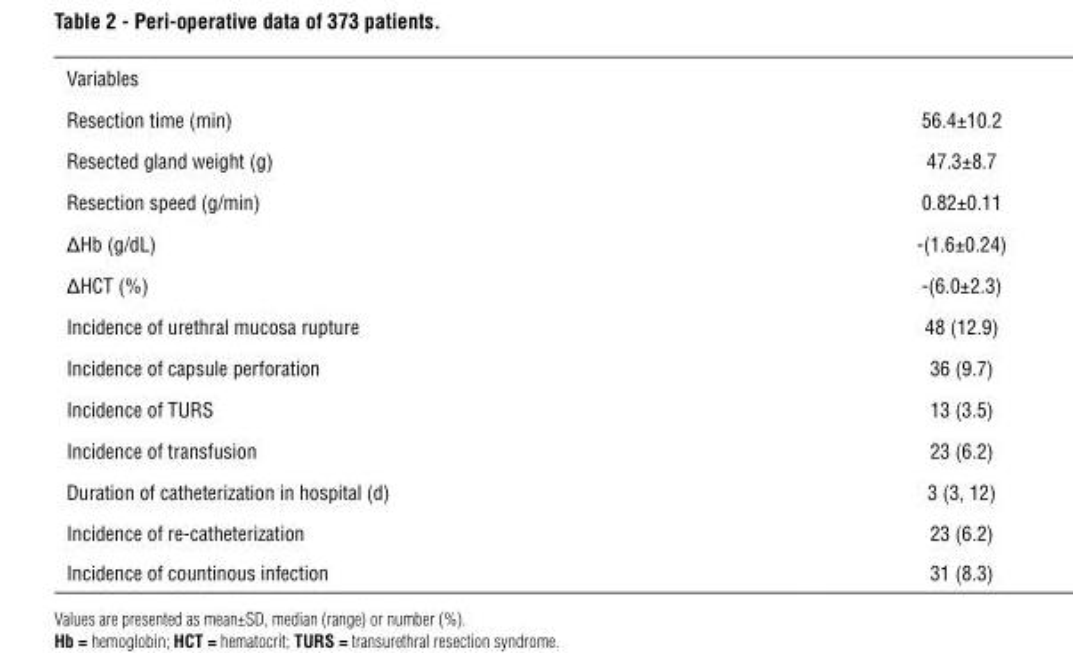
<table><tbody><tr><td colspan="2">Variables</td></tr><tr><td>Resection time (min)</td><td>56.4±10.2</td></tr><tr><td>Resected gland weight (g)</td><td>47.3±8.7</td></tr><tr><td>Resection speed (g/min)</td><td>0.82±0.11</td></tr><tr><td>ΔHb (g/dL)</td><td>-(1.6±0.24)</td></tr><tr><td>ΔHCT (%)</td><td>-(6.0±2.3)</td></tr><tr><td>Incidence of urethral mucosa rupture</td><td>48 (12.9)</td></tr><tr><td>Incidence of capsule perforation</td><td>36 (9.7)</td></tr><tr><td>Incidence of TURS</td><td>13 (3.5)</td></tr><tr><td>Incidence of transfusion</td><td>23 (6.2)</td></tr><tr><td>Duration of catheterization in hospital (d)</td><td>3 (3, 12)</td></tr><tr><td>Incidence of re-catheterization</td><td>23 (6.2)</td></tr><tr><td>Incidence of countinous infection</td><td>31 (8.3)</td></tr></tbody></table>